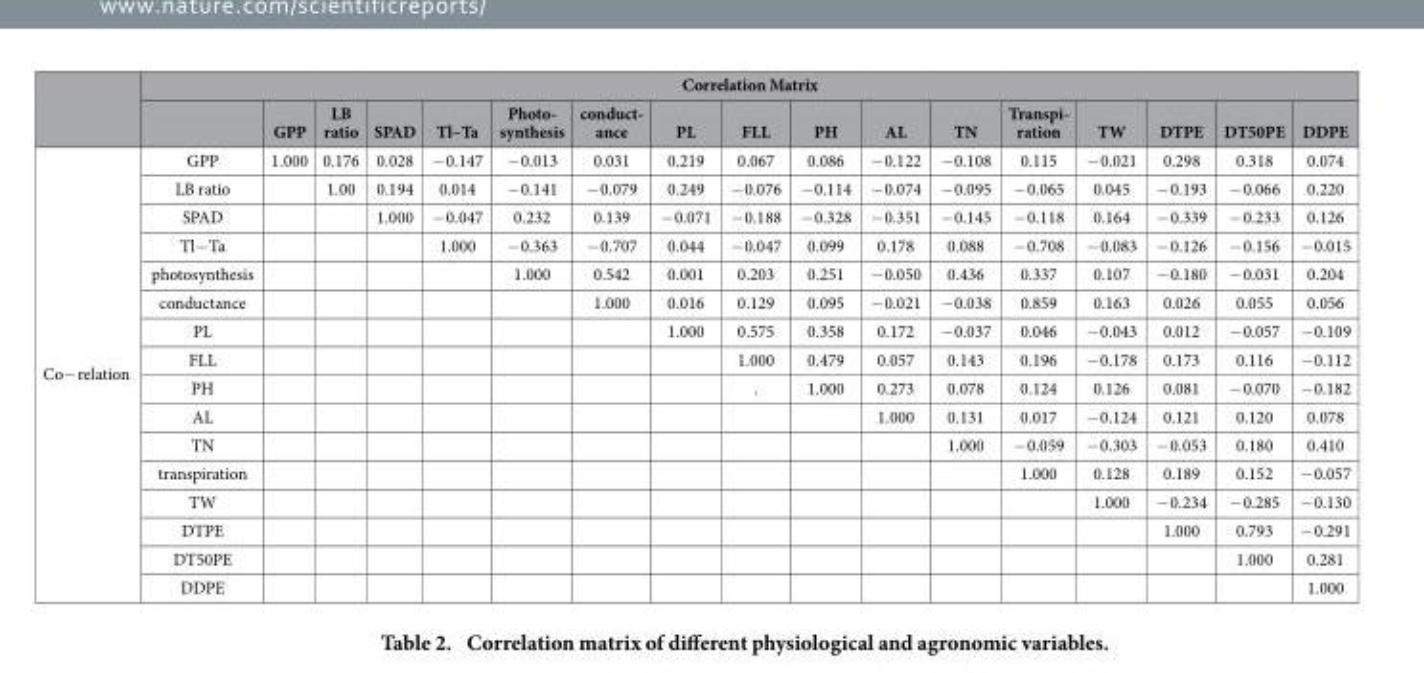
<table><thead><tr><td rowspan="2"></td><td colspan="17">Correlation Matrix</td></tr><tr><td></td><td>GPP</td><td>LB ratio</td><td>SPAD</td><td>Tl–Ta</td><td>Photo- synthesis</td><td>conduct- ance</td><td>PL</td><td>FLL</td><td>PH</td><td>AL</td><td>TN</td><td>Transpi- ration</td><td>TW</td><td>DTPE</td><td>DT50PE</td><td>DDPE</td></tr></thead><tbody><tr><td rowspan="16">Co− relation</td><td>GPP</td><td>1.000</td><td>0.176</td><td>0.028</td><td>− 0.147</td><td>− 0.013</td><td>0.031</td><td>0.219</td><td>0.067</td><td>0.086</td><td>− 0.122</td><td>− 0.108</td><td>0.115</td><td>− 0.021</td><td>0.298</td><td>0.318</td><td>0.074</td></tr><tr><td>LB ratio</td><td></td><td>1.00</td><td>0.194</td><td>0.014</td><td>− 0.141</td><td>− 0.079</td><td>0.249</td><td>− 0.076</td><td>− 0.114</td><td>− 0.074</td><td>− 0.095</td><td>− 0.065</td><td>0.045</td><td>− 0.193</td><td>− 0.066</td><td>0.220</td></tr><tr><td>SPAD</td><td></td><td></td><td>1.000</td><td>− 0.047</td><td>0.232</td><td>0.139</td><td>− 0.071</td><td>− 0.188</td><td>− 0.328</td><td>− 0.351</td><td>− 0.145</td><td>− 0.118</td><td>0.164</td><td>− 0.339</td><td>− 0.233</td><td>0.126</td></tr><tr><td>Tl− Ta</td><td></td><td></td><td></td><td>1.000</td><td>− 0.363</td><td>− 0.707</td><td>0.044</td><td>− 0.047</td><td>0.099</td><td>0.178</td><td>0.088</td><td>− 0.708</td><td>− 0.083</td><td>− 0.126</td><td>− 0.156</td><td>− 0.015</td></tr><tr><td>photosynthesis</td><td></td><td></td><td></td><td></td><td>1.000</td><td>0.542</td><td>0.001</td><td>0.203</td><td>0.251</td><td>− 0.050</td><td>0.436</td><td>0.337</td><td>0.107</td><td>− 0.180</td><td>− 0.031</td><td>0.204</td></tr><tr><td>conductance</td><td></td><td></td><td></td><td></td><td></td><td>1.000</td><td>0.016</td><td>0.129</td><td>0.095</td><td>− 0.021</td><td>− 0.038</td><td>0.859</td><td>0.163</td><td>0.026</td><td>0.055</td><td>0.056</td></tr><tr><td>PL</td><td></td><td></td><td></td><td></td><td></td><td></td><td>1.000</td><td>0.575</td><td>0.358</td><td>0.172</td><td>− 0.037</td><td>0.046</td><td>− 0.043</td><td>0.012</td><td>− 0.057</td><td>− 0.109</td></tr><tr><td>FLL</td><td></td><td></td><td></td><td></td><td></td><td></td><td></td><td>1.000</td><td>0.479</td><td>0.057</td><td>0.143</td><td>0.196</td><td>− 0.178</td><td>0.173</td><td>0.116</td><td>− 0.112</td></tr><tr><td>PH</td><td></td><td></td><td></td><td></td><td></td><td></td><td></td><td>.</td><td>1.000</td><td>0.273</td><td>0.078</td><td>0.124</td><td>0.126</td><td>0.081</td><td>− 0.070</td><td>− 0.182</td></tr><tr><td>AL</td><td></td><td></td><td></td><td></td><td></td><td></td><td></td><td></td><td></td><td>1.000</td><td>0.131</td><td>0.017</td><td>− 0.124</td><td>0.121</td><td>0.120</td><td>0.078</td></tr><tr><td>TN</td><td></td><td></td><td></td><td></td><td></td><td></td><td></td><td></td><td></td><td></td><td>1.000</td><td>− 0.059</td><td>− 0.303</td><td>− 0.053</td><td>0.180</td><td>0.410</td></tr><tr><td>transpiration</td><td></td><td></td><td></td><td></td><td></td><td></td><td></td><td></td><td></td><td></td><td></td><td>1.000</td><td>0.128</td><td>0.189</td><td>0.152</td><td>− 0.057</td></tr><tr><td>TW</td><td></td><td></td><td></td><td></td><td></td><td></td><td></td><td></td><td></td><td></td><td></td><td></td><td>1.000</td><td>− 0.234</td><td>− 0.285</td><td>− 0.130</td></tr><tr><td>DTPE</td><td></td><td></td><td></td><td></td><td></td><td></td><td></td><td></td><td></td><td></td><td></td><td></td><td></td><td>1.000</td><td>0.793</td><td>− 0.291</td></tr><tr><td>DT50PE</td><td></td><td></td><td></td><td></td><td></td><td></td><td></td><td></td><td></td><td></td><td></td><td></td><td></td><td></td><td>1.000</td><td>0.281</td></tr><tr><td>DDPE</td><td></td><td></td><td></td><td></td><td></td><td></td><td></td><td></td><td></td><td></td><td></td><td></td><td></td><td></td><td></td><td>1.000</td></tr></tbody></table>